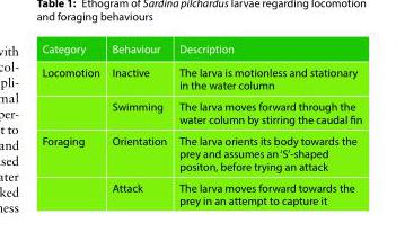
<table><thead><tr><td>Category</td><td>Behaviour</td><td>Description</td></tr></thead><tbody><tr><td rowspan="2">Locomotion</td><td>Inactive</td><td>The larva is motionless and stationary in the water column</td></tr><tr><td>Swimming</td><td>The larva moves forward through the water column by stirring the caudal fin</td></tr><tr><td rowspan="2">Foraging</td><td>Orientation</td><td>The larva orients its body towards the prey and assumes an ‘S’-shaped positon, before trying an attack</td></tr><tr><td>Attack</td><td>The larva moves forward towards the prey in an attempt to capture it</td></tr></tbody></table>